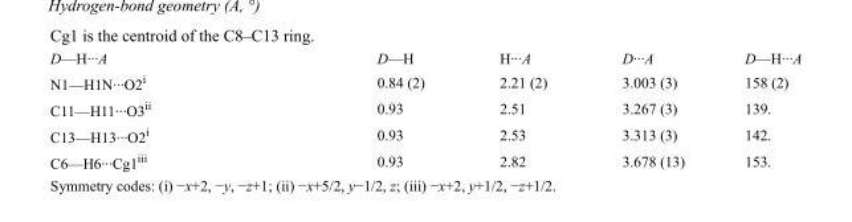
<table><tbody><tr><td>D—H···A</td><td>D—H</td><td>H···A</td><td>D···A</td><td>D—H···A</td></tr><tr><td>N1—H1N···O2<sup>i</sup></td><td>0.84 (2)</td><td>2.21 (2)</td><td>3.003 (3)</td><td>158 (2)</td></tr><tr><td>C11—H11···O3<sup>ii</sup></td><td>0.93</td><td>2.51</td><td>3.267 (3)</td><td>139.</td></tr><tr><td>C13—H13···O2<sup>i</sup></td><td>0.93</td><td>2.53</td><td>3.313 (3)</td><td>142.</td></tr><tr><td>C6—H6···Cg1<sup>iii</sup></td><td>0.93</td><td>2.82</td><td>3.678 (13)</td><td>153.</td></tr></tbody></table>